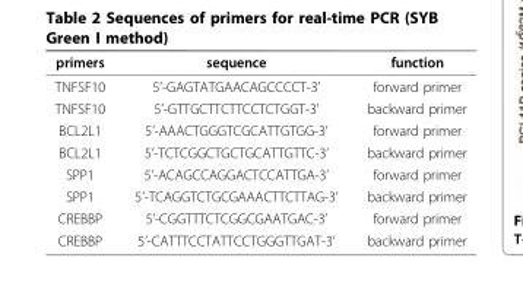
<table><thead><tr><td>primers</td><td>sequence</td><td>function</td></tr></thead><tbody><tr><td>TNFSF10</td><td>5’-GAGTATGAACAGCCCCT-3’</td><td>forward primer</td></tr><tr><td>TNFSF10</td><td>5’-GTTGCTTCTTCCTCTGGT-3’</td><td>backward primer</td></tr><tr><td>BCL2L1</td><td>5’-AAACTGGGTCGCATTGTGG-3’</td><td>forward primer</td></tr><tr><td>BCL2L1</td><td>5’-TCTCGGCTGCTGCATTGTTC-3’</td><td>backward primer</td></tr><tr><td>SPP1</td><td>5’-ACAGCCAGGACTCCATTGA-3’</td><td>forward primer</td></tr><tr><td>SPP1</td><td>5’-TCAGGTCTGCGAAACTTCTTAG-3’</td><td>backward primer</td></tr><tr><td>CREBBP</td><td>5’-CGGTTTCTCGGCGAATGAC-3’</td><td>forward primer</td></tr><tr><td>CREBBP</td><td>5’-CATTTCCTATTCCTGGGTTGAT-3’</td><td>backward primer</td></tr></tbody></table>